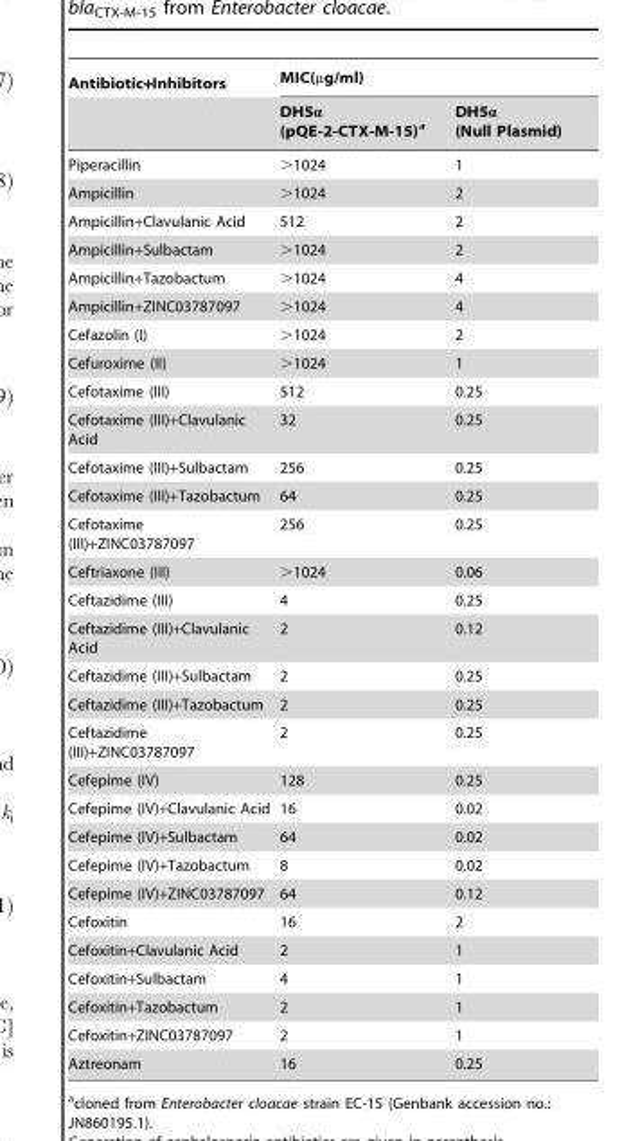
<table><thead><tr><td rowspan="2">Antibiotic+Inhibitors</td><td colspan="2">MIC(µg/ml)</td></tr><tr><td>DH5α (pQE-2-CTX-M-15)<sup>a</sup></td><td>DH5α (Null Plasmid)</td></tr></thead><tbody><tr><td>Piperacillin</td><td>&gt;1024</td><td>1</td></tr><tr><td>Ampicillin</td><td>&gt;1024</td><td>2</td></tr><tr><td>Ampicillin+Clavulanic Acid</td><td>512</td><td>2</td></tr><tr><td>Ampicillin+Sulbactam</td><td>&gt;1024</td><td>2</td></tr><tr><td>Ampicillin+Tazobactum</td><td>&gt;1024</td><td>4</td></tr><tr><td>Ampicillin+ZINC03787097</td><td>&gt;1024</td><td>4</td></tr><tr><td>Cefazolin (I)</td><td>&gt;1024</td><td>2</td></tr><tr><td>Cefuroxime (II)</td><td>&gt;1024</td><td>1</td></tr><tr><td>Cefotaxime (III)</td><td>512</td><td>0.25</td></tr><tr><td>Cefotaxime (III)+Clavulanic Acid</td><td>32</td><td>0.25</td></tr><tr><td>Cefotaxime (III)+Sulbactam</td><td>256</td><td>0.25</td></tr><tr><td>Cefotaxime (III)+Tazobactum</td><td>64</td><td>0.25</td></tr><tr><td>Cefotaxime (III)+ZINC03787097</td><td>256</td><td>0.25</td></tr><tr><td>Ceftriaxone (III)</td><td>&gt;1024</td><td>0.06</td></tr><tr><td>Ceftazidime (III)</td><td>4</td><td>0.25</td></tr><tr><td>Ceftazidime (III)+Clavulanic Acid</td><td>2</td><td>0.12</td></tr><tr><td>Ceftazidime (III)+Sulbactam</td><td>2</td><td>0.25</td></tr><tr><td>Ceftazidime (III)+Tazobactum</td><td>2</td><td>0.25</td></tr><tr><td>Ceftazidime (III)+ZINC03787097</td><td>2</td><td>0.25</td></tr><tr><td>Cefepime (IV)</td><td>128</td><td>0.25</td></tr><tr><td>Cefepime (IV)+Clavulanic Acid</td><td>16</td><td>0.02</td></tr><tr><td>Cefepime (IV)+Sulbactam</td><td>64</td><td>0.02</td></tr><tr><td>Cefepime (IV)+Tazobactum</td><td>8</td><td>0.02</td></tr><tr><td>Cefepime (IV)+ZINC03787097</td><td>64</td><td>0.12</td></tr><tr><td>Cefoxitin</td><td>16</td><td>2</td></tr><tr><td>Cefoxitin+Clavulanic Acid</td><td>2</td><td>1</td></tr><tr><td>Cefoxitin+Sulbactam</td><td>4</td><td>1</td></tr><tr><td>Cefoxitin+Tazobactum</td><td>2</td><td>1</td></tr><tr><td>Cefoxitin+ZINC03787097</td><td>2</td><td>1</td></tr><tr><td>Aztreonam</td><td>16</td><td>0.25</td></tr></tbody></table>